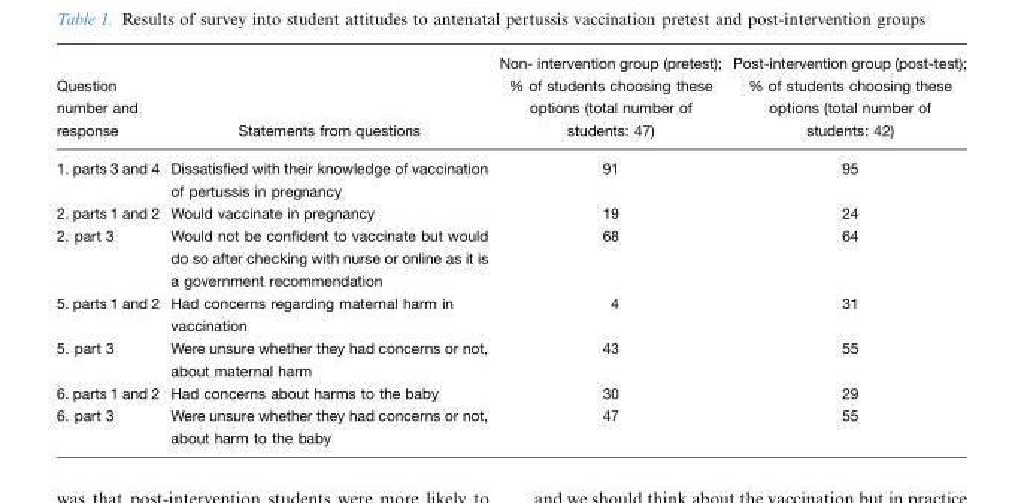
<table><thead><tr><td>Question number and response</td><td>Statements from questions</td><td>Non- intervention group (pretest); % of students choosing these options (total number of students: 47)</td><td>Post-intervention group (post-test); % of students choosing these options (total number of students: 42)</td></tr></thead><tbody><tr><td>1. parts 3 and 4</td><td>Dissatisfied with their knowledge of vaccination of pertussis in pregnancy</td><td>91</td><td>95</td></tr><tr><td>2. parts 1 and 2</td><td>Would vaccinate in pregnancy</td><td>19</td><td>24</td></tr><tr><td>2. part 3</td><td>Would not be confident to vaccinate but would do so after checking with nurse or online as it is a government recommendation</td><td>68</td><td>64</td></tr><tr><td>5. parts 1 and 2</td><td>Had concerns regarding maternal harm in vaccination</td><td>4</td><td>31</td></tr><tr><td>5. part 3</td><td>Were unsure whether they had concerns or not, about maternal harm</td><td>43</td><td>55</td></tr><tr><td>6. parts 1 and 2</td><td>Had concerns about harms to the baby</td><td>30</td><td>29</td></tr><tr><td>6. part 3</td><td>Were unsure whether they had concerns or not, about harm to the baby</td><td>47</td><td>55</td></tr></tbody></table>